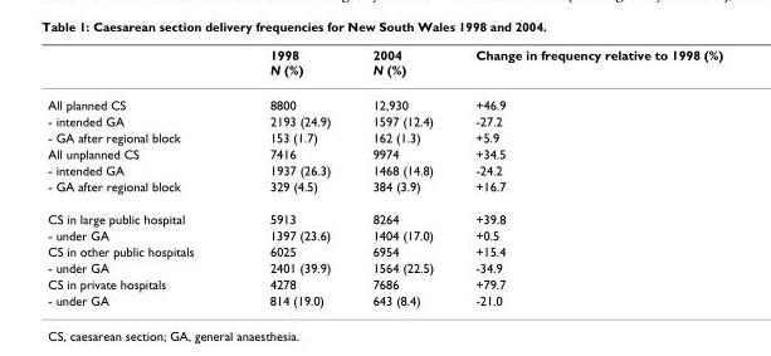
<table><thead><tr><td></td><td>1998 N (%)</td><td>2004 N (%)</td><td>Change in frequency relative to 1998 (%)</td></tr></thead><tbody><tr><td>All planned CS</td><td>8800</td><td>12,930</td><td>+46.9</td></tr><tr><td>- intended GA</td><td>2193 (24.9)</td><td>1597 (12.4)</td><td>-27.2</td></tr><tr><td>- GA after regional block</td><td>153 (1.7)</td><td>162 (1.3)</td><td>+5.9</td></tr><tr><td>All unplanned CS</td><td>7416</td><td>9974</td><td>+34.5</td></tr><tr><td>- intended GA</td><td>1937 (26.3)</td><td>1468 (14.8)</td><td>-24.2</td></tr><tr><td>- GA after regional block</td><td>329 (4.5)</td><td>384 (3.9)</td><td>+16.7</td></tr><tr><td>CS in large public hospital</td><td>5913</td><td>8264</td><td>+39.8</td></tr><tr><td>- under GA</td><td>1397 (23.6)</td><td>1404 (17.0)</td><td>+0.5</td></tr><tr><td>CS in other public hospitals</td><td>6025</td><td>6954</td><td>+15.4</td></tr><tr><td>- under GA</td><td>2401 (39.9)</td><td>1564 (22.5)</td><td>-34.9</td></tr><tr><td>CS in private hospitals</td><td>4278</td><td>7686</td><td>+79.7</td></tr><tr><td>- under GA</td><td>814 (19.0)</td><td>643 (8.4)</td><td>-21.0</td></tr></tbody></table>